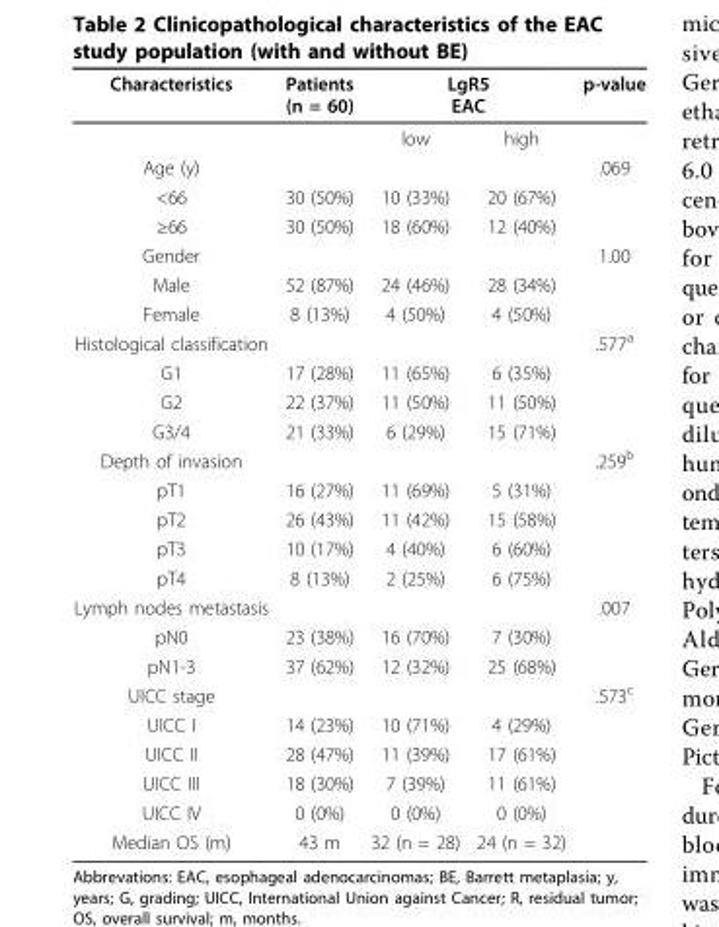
<table><thead><tr><td rowspan="2">Characteristics</td><td rowspan="2">Patients (n = 60)</td><td colspan="2">LgR5 EAC</td><td rowspan="2">p-value</td></tr><tr><td>low</td><td>high</td></tr></thead><tbody><tr><td>Age (y)</td><td></td><td></td><td></td><td>.069</td></tr><tr><td>&lt;66</td><td>30 (50%)</td><td>10 (33%)</td><td>20 (67%)</td><td></td></tr><tr><td>≥66</td><td>30 (50%)</td><td>18 (60%)</td><td>12 (40%)</td><td></td></tr><tr><td>Gender</td><td></td><td></td><td></td><td>1.00</td></tr><tr><td>Male</td><td>52 (87%)</td><td>24 (46%)</td><td>28 (34%)</td><td></td></tr><tr><td>Female</td><td>8 (13%)</td><td>4 (50%)</td><td>4 (50%)</td><td></td></tr><tr><td>Histological classification</td><td></td><td></td><td></td><td>.577<sup>a</sup></td></tr><tr><td>G1</td><td>17 (28%)</td><td>11 (65%)</td><td>6 (35%)</td><td></td></tr><tr><td>G2</td><td>22 (37%)</td><td>11 (50%)</td><td>11 (50%)</td><td></td></tr><tr><td>G3/4</td><td>21 (33%)</td><td>6 (29%)</td><td>15 (71%)</td><td></td></tr><tr><td>Depth of invasion</td><td></td><td></td><td></td><td>.259<sup>b</sup></td></tr><tr><td>pT1</td><td>16 (27%)</td><td>11 (69%)</td><td>5 (31%)</td><td></td></tr><tr><td>pT2</td><td>26 (43%)</td><td>11 (42%)</td><td>15 (58%)</td><td></td></tr><tr><td>pT3</td><td>10 (17%)</td><td>4 (40%)</td><td>6 (60%)</td><td></td></tr><tr><td>pT4</td><td>8 (13%)</td><td>2 (25%)</td><td>6 (75%)</td><td></td></tr><tr><td>Lymph nodes metastasis</td><td></td><td></td><td></td><td>.007</td></tr><tr><td>pN0</td><td>23 (38%)</td><td>16 (70%)</td><td>7 (30%)</td><td></td></tr><tr><td>pN1-3</td><td>37 (62%)</td><td>12 (32%)</td><td>25 (68%)</td><td></td></tr><tr><td>UICC stage</td><td></td><td></td><td></td><td>.573<sup>c</sup></td></tr><tr><td>UICC I</td><td>14 (23%)</td><td>10 (71%)</td><td>4 (29%)</td><td></td></tr><tr><td>UICC II</td><td>28 (47%)</td><td>11 (39%)</td><td>17 (61%)</td><td></td></tr><tr><td>UICC III</td><td>18 (30%)</td><td>7 (39%)</td><td>11 (61%)</td><td></td></tr><tr><td>UICC IV</td><td>0 (0%)</td><td>0 (0%)</td><td>0 (0%)</td><td></td></tr><tr><td>Median OS (m)</td><td>43 m</td><td>32 (n = 28)</td><td>24 (n = 32)</td><td></td></tr></tbody></table>